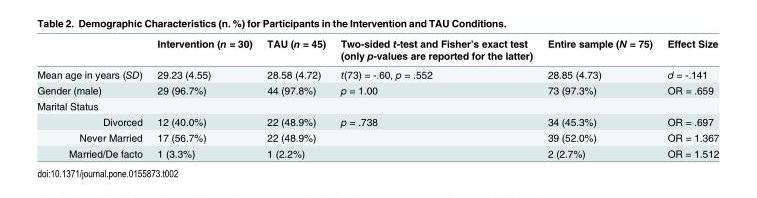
<table><thead><tr><td></td><td>Intervention (n = 30)</td><td>TAU (n = 45)</td><td>Two-sided t-test and Fisher’s exact test (only p-values are reported for the latter)</td><td>Entire sample (N = 75)</td><td>Effect Size</td></tr></thead><tbody><tr><td>Mean age in years (SD)</td><td>29.23 (4.55)</td><td>28.58 (4.72)</td><td>t(73) = -.60, p = .552</td><td>28.85 (4.73)</td><td>d = -.141</td></tr><tr><td>Gender (male)</td><td>29 (96.7%)</td><td>44 (97.8%)</td><td>p = 1.00</td><td>73 (97.3%)</td><td>OR = .659</td></tr><tr><td colspan="6">Marital Status</td></tr><tr><td>Divorced</td><td>12 (40.0%)</td><td>22 (48.9%)</td><td>p = .738</td><td>34 (45.3%)</td><td>OR = .697</td></tr><tr><td>Never Married</td><td>17 (56.7%)</td><td>22 (48.9%)</td><td></td><td>39 (52.0%)</td><td>OR = 1.367</td></tr><tr><td>Married/De facto</td><td>1 (3.3%)</td><td>1 (2.2%)</td><td></td><td>2 (2.7%)</td><td>OR = 1.512</td></tr></tbody></table>